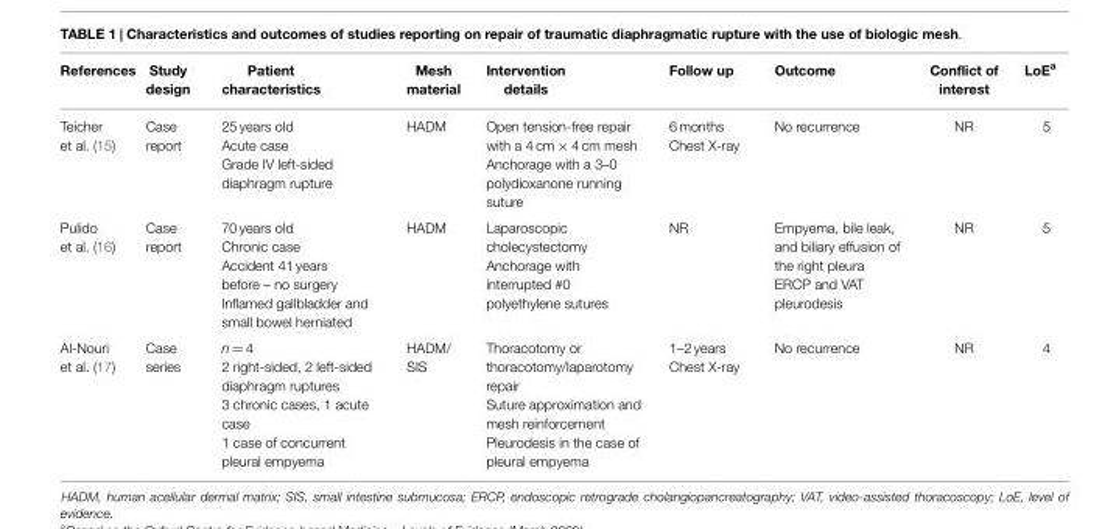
<table><thead><tr><td>References</td><td>Study design</td><td>Patient characteristics</td><td>Mesh material</td><td>Intervention details</td><td>Follow up</td><td>Outcome</td><td>Conflict of interest</td><td>LoE<sup>a</sup></td></tr></thead><tbody><tr><td>Teicher et al. (15)</td><td>Case report</td><td>25 years old Acute case Grade IV left-sided diaphragm rupture</td><td>HADM</td><td>Open tension-free repair with a 4 cm × 4 cm mesh Anchorage with a 3–0 polydioxanone running suture</td><td>6 months Chest X-ray</td><td>No recurrence</td><td>NR</td><td>5</td></tr><tr><td>Pulido et al. (16)</td><td>Case report</td><td>70 years old Chronic case Accident 41 years before – no surgery Inflamed gallbladder and small bowel herniated</td><td>HADM</td><td>Laparoscopic cholecystectomy Anchorage with interrupted #0 polyethylene sutures</td><td>NR</td><td>Empyema, bile leak, and biliary effusion of the right pleura ERCP and VAT pleurodesis</td><td>NR</td><td>5</td></tr><tr><td>Al-Nouri et al. (17)</td><td>Case series</td><td>n = 4 2 right-sided, 2 left-sided diaphragm ruptures 3 chronic cases, 1 acute case 1 case of concurrent pleural empyema</td><td>HADM/ SIS</td><td>Thoracotomy or thoracotomy/laparotomy repair Suture approximation and mesh reinforcement Pleurodesis in the case of pleural empyema</td><td>1–2 years Chest X-ray</td><td>No recurrence</td><td>NR</td><td>4</td></tr></tbody></table>